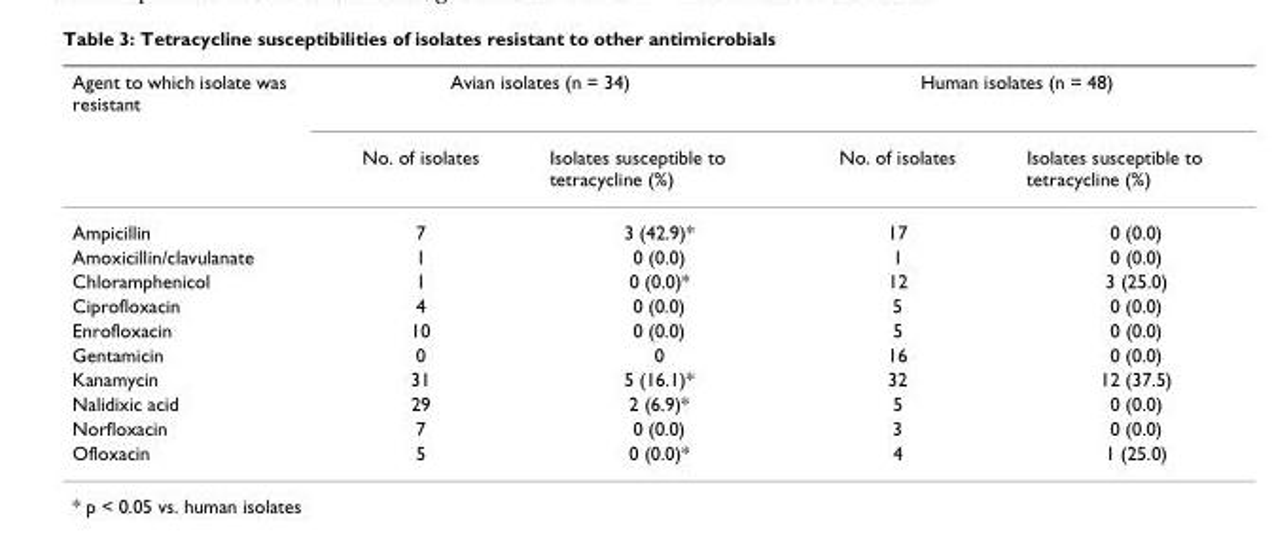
<table><thead><tr><td rowspan="2">Agent to which isolate was resistant</td><td colspan="2">Avian isolates (n = 34)</td><td colspan="2">Human isolates (n = 48)</td></tr><tr><td>No. of isolates</td><td>Isolates susceptible to tetracycline (%)</td><td>No. of isolates</td><td>Isolates susceptible to tetracycline (%)</td></tr></thead><tbody><tr><td>Ampicillin</td><td>7</td><td>3 (42.9)*</td><td>17</td><td>0 (0.0)</td></tr><tr><td>Amoxicillin/clavulanate</td><td>1</td><td>0 (0.0)</td><td>1</td><td>0 (0.0)</td></tr><tr><td>Chloramphenicol</td><td>1</td><td>0 (0.0)*</td><td>12</td><td>3 (25.0)</td></tr><tr><td>Ciprofloxacin</td><td>4</td><td>0 (0.0)</td><td>5</td><td>0 (0.0)</td></tr><tr><td>Enrofloxacin</td><td>10</td><td>0 (0.0)</td><td>5</td><td>0 (0.0)</td></tr><tr><td>Gentamicin</td><td>0</td><td>0</td><td>16</td><td>0 (0.0)</td></tr><tr><td>Kanamycin</td><td>31</td><td>5 (16.1)*</td><td>32</td><td>12 (37.5)</td></tr><tr><td>Nalidixic acid</td><td>29</td><td>2 (6.9)*</td><td>5</td><td>0 (0.0)</td></tr><tr><td>Norfloxacin</td><td>7</td><td>0 (0.0)</td><td>3</td><td>0 (0.0)</td></tr><tr><td>Ofloxacin</td><td>5</td><td>0 (0.0)*</td><td>4</td><td>1 (25.0)</td></tr></tbody></table>